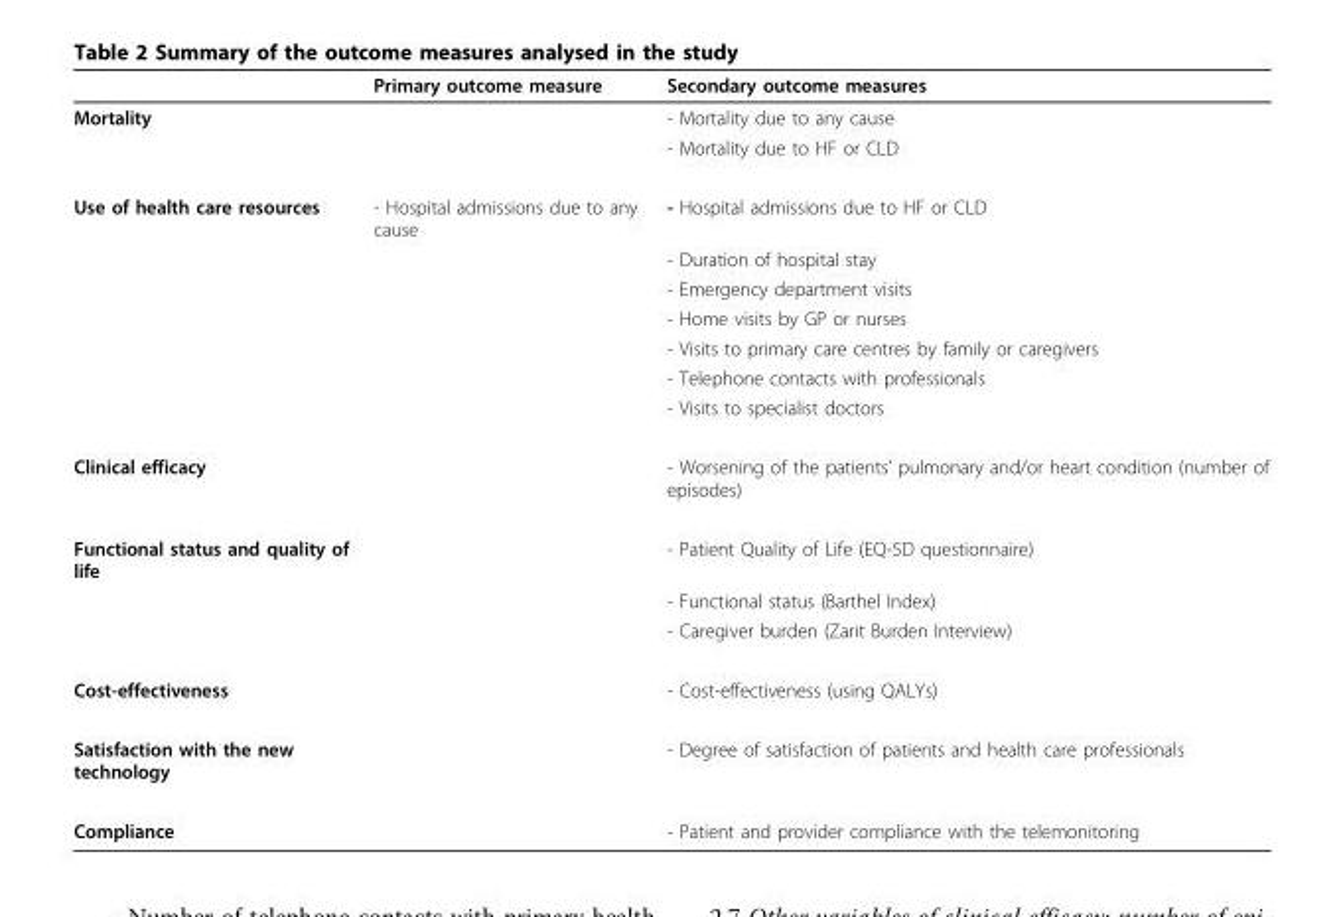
<table><thead><tr><td></td><td>Primary outcome measure</td><td>Secondary outcome measures</td></tr></thead><tbody><tr><td rowspan="2">Mortality</td><td></td><td>- Mortality due to any cause</td></tr><tr><td></td><td>- Mortality due to HF or CLD</td></tr><tr><td rowspan="7">Use of health care resources</td><td>- Hospital admissions due to any cause</td><td>- Hospital admissions due to HF or CLD</td></tr><tr><td></td><td>- Duration of hospital stay</td></tr><tr><td></td><td>- Emergency department visits</td></tr><tr><td></td><td>- Home visits by GP or nurses</td></tr><tr><td></td><td>- Visits to primary care centres by family or caregivers</td></tr><tr><td></td><td>- Telephone contacts with professionals</td></tr><tr><td></td><td>- Visits to specialist doctors</td></tr><tr><td>Clinical efficacy</td><td></td><td>- Worsening of the patients’ pulmonary and/or heart condition (number of episodes)</td></tr><tr><td rowspan="3">Functional status and quality of life</td><td></td><td>- Patient Quality of Life (EQ-5D questionnaire)</td></tr><tr><td></td><td>- Functional status (Barthel Index)</td></tr><tr><td></td><td>- Caregiver burden (Zarit Burden Interview)</td></tr><tr><td>Cost-effectiveness</td><td></td><td>- Cost-effectiveness (using QALYs)</td></tr><tr><td>Satisfaction with the new technology</td><td></td><td>- Degree of satisfaction of patients and health care professionals</td></tr><tr><td>Compliance</td><td></td><td>- Patient and provider compliance with the telemonitoring</td></tr></tbody></table>